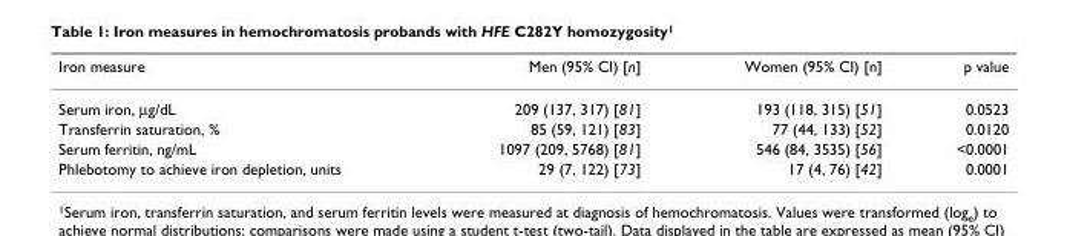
<table><thead><tr><td>Iron measure</td><td>Men (95% CI) [n]</td><td>Women (95% CI) [n]</td><td>p value</td></tr></thead><tbody><tr><td>Serum iron, µg/dL</td><td>209 (137, 317) [81]</td><td>193 (118, 315) [51]</td><td>0.0523</td></tr><tr><td>Transferrin saturation, %</td><td>85 (59, 121) [83]</td><td>77 (44, 133) [52]</td><td>0.0120</td></tr><tr><td>Serum ferritin, ng/mL</td><td>1097 (209, 5768) [81]</td><td>546 (84, 3535) [56]</td><td>&lt;0.0001</td></tr><tr><td>Phlebotomy to achieve iron depletion, units</td><td>29 (7, 122) [73]</td><td>17 (4, 76) [42]</td><td>0.0001</td></tr></tbody></table>